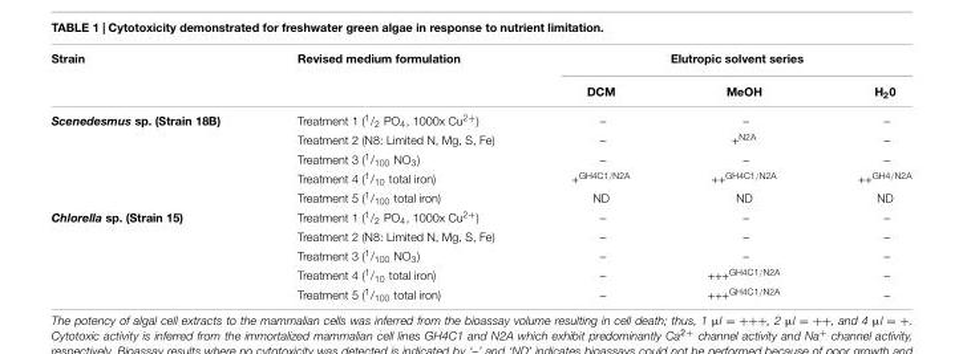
<table><thead><tr><td rowspan="2">Strain</td><td rowspan="2">Revised medium formulation</td><td colspan="3">Elutropic solvent series</td></tr><tr><td>DCM</td><td>MeOH</td><td>H<sub>2</sub>0</td></tr></thead><tbody><tr><td rowspan="5">Scenedesmus sp. (Strain 18B)</td><td>Treatment 1 (<sup>1</sup>/<sub>2</sub> PO<sub>4</sub>, 1000x Cu<sup>2+</sup>)</td><td>–</td><td>–</td><td>–</td></tr><tr><td>Treatment 2 (N8: Limited N, Mg, S, Fe)</td><td>–</td><td>+<sup>N2A</sup></td><td>–</td></tr><tr><td>Treatment 3 (<sup>1</sup>/<sub>100</sub> NO<sub>3</sub>)</td><td>–</td><td>–</td><td>–</td></tr><tr><td>Treatment 4 (<sup>1</sup>/<sub>10</sub> total iron)</td><td>+<sup>GH4C1/N2A</sup></td><td>++<sup>GH4C1/N2A</sup></td><td>++<sup>GH4/N2A</sup></td></tr><tr><td>Treatment 5 (<sup>1</sup>/<sub>100</sub> total iron)</td><td>ND</td><td>ND</td><td>ND</td></tr><tr><td rowspan="5">Chlorella sp. (Strain 15)</td><td>Treatment 1 (<sup>1</sup>/<sub>2</sub> PO<sub>4</sub>, 1000x Cu<sup>2+</sup>)</td><td>–</td><td>–</td><td>–</td></tr><tr><td>Treatment 2 (N8: Limited N, Mg, S, Fe)</td><td>–</td><td>–</td><td>–</td></tr><tr><td>Treatment 3 (<sup>1</sup>/<sub>100</sub> NO<sub>3</sub>)</td><td>–</td><td>–</td><td>–</td></tr><tr><td>Treatment 4 (<sup>1</sup>/<sub>10</sub> total iron)</td><td>–</td><td>+++<sup>GH4C1/N2A</sup></td><td>–</td></tr><tr><td>Treatment 5 (<sup>1</sup>/<sub>100</sub> total iron)</td><td>–</td><td>+++<sup>GH4C1/N2A</sup></td><td>–</td></tr></tbody></table>